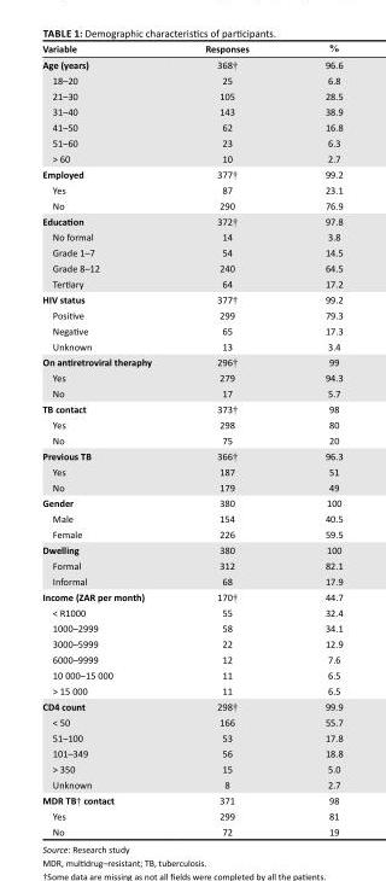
<table><thead><tr><td>Variable</td><td>Responses</td><td>%</td></tr></thead><tbody><tr><td>Age (years)</td><td>368†</td><td>96.6</td></tr><tr><td>18–20</td><td>25</td><td>6.8</td></tr><tr><td>21–30</td><td>105</td><td>28.5</td></tr><tr><td>31–40</td><td>143</td><td>38.9</td></tr><tr><td>41–50</td><td>62</td><td>16.8</td></tr><tr><td>51–60</td><td>23</td><td>6.3</td></tr><tr><td>&gt; 60</td><td>10</td><td>2.7</td></tr><tr><td>Employed</td><td>377†</td><td>99.2</td></tr><tr><td>Yes</td><td>87</td><td>23.1</td></tr><tr><td>No</td><td>290</td><td>76.9</td></tr><tr><td>Education</td><td>372†</td><td>97.8</td></tr><tr><td>No formal</td><td>14</td><td>3.8</td></tr><tr><td>Grade 1–7</td><td>54</td><td>14.5</td></tr><tr><td>Grade 8–12</td><td>240</td><td>64.5</td></tr><tr><td>Tertiary</td><td>64</td><td>17.2</td></tr><tr><td>HIV status</td><td>377†</td><td>99.2</td></tr><tr><td>Positive</td><td>299</td><td>79.3</td></tr><tr><td>Negative</td><td>65</td><td>17.3</td></tr><tr><td>Unknown</td><td>13</td><td>3.4</td></tr><tr><td>On antiretroviral theraphy</td><td>296†</td><td>99</td></tr><tr><td>Yes</td><td>279</td><td>94.3</td></tr><tr><td>No</td><td>17</td><td>5.7</td></tr><tr><td>TB contact</td><td>373†</td><td>98</td></tr><tr><td>Yes</td><td>298</td><td>80</td></tr><tr><td>No</td><td>75</td><td>20</td></tr><tr><td>Previous TB</td><td>366†</td><td>96.3</td></tr><tr><td>Yes</td><td>187</td><td>51</td></tr><tr><td>No</td><td>179</td><td>49</td></tr><tr><td>Gender</td><td>380</td><td>100</td></tr><tr><td>Male</td><td>154</td><td>40.5</td></tr><tr><td>Female</td><td>226</td><td>59.5</td></tr><tr><td>Dwelling</td><td>380</td><td>100</td></tr><tr><td>Formal</td><td>312</td><td>82.1</td></tr><tr><td>Informal</td><td>68</td><td>17.9</td></tr><tr><td>Income (ZAR per month)</td><td>170†</td><td>44.7</td></tr><tr><td>&lt; R1000</td><td>55</td><td>32.4</td></tr><tr><td>1000–2999</td><td>58</td><td>34.1</td></tr><tr><td>3000–5999</td><td>22</td><td>12.9</td></tr><tr><td>6000–9999</td><td>12</td><td>7.6</td></tr><tr><td>10 000–15 000</td><td>11</td><td>6.5</td></tr><tr><td>&gt; 15 000</td><td>11</td><td>6.5</td></tr><tr><td>CD4 count</td><td>298†</td><td>99.9</td></tr><tr><td>&lt; 50</td><td>166</td><td>55.7</td></tr><tr><td>51–100</td><td>53</td><td>17.8</td></tr><tr><td>101–349</td><td>56</td><td>18.8</td></tr><tr><td>&gt; 350</td><td>15</td><td>5.0</td></tr><tr><td>Unknown</td><td>8</td><td>2.7</td></tr><tr><td>MDR TB† contact</td><td>371</td><td>98</td></tr><tr><td>Yes</td><td>299</td><td>81</td></tr><tr><td>No</td><td>72</td><td>19</td></tr></tbody></table>